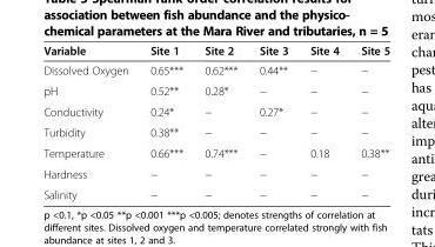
<table><thead><tr><td>Variable</td><td>Site 1</td><td>Site 2</td><td>Site 3</td><td>Site 4</td><td>Site 5</td></tr></thead><tbody><tr><td>Dissolved Oxygen</td><td>0.65***</td><td>0.62***</td><td>0.44**</td><td>−</td><td>−</td></tr><tr><td>pH</td><td>0.52**</td><td>0.28*</td><td>−</td><td>−</td><td>−</td></tr><tr><td>Conductivity</td><td>0.24*</td><td>−</td><td>0.27*</td><td>−</td><td>−</td></tr><tr><td>Turbidity</td><td>0.38**</td><td>−</td><td>−</td><td>−</td><td>−</td></tr><tr><td>Temperature</td><td>0.66***</td><td>0.74***</td><td>−</td><td>0.18</td><td>0.38**</td></tr><tr><td>Hardness</td><td>−</td><td>−</td><td>−</td><td>−</td><td>−</td></tr><tr><td>Salinity</td><td>−</td><td>−</td><td>−</td><td>−</td><td>−</td></tr></tbody></table>